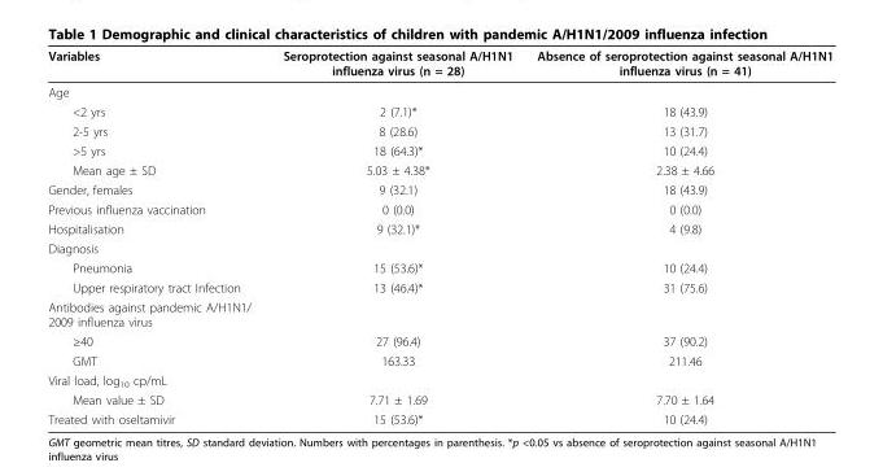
<table><thead><tr><td>Variables</td><td>Seroprotection against seasonal A/H1N1 influenza virus (n = 28)</td><td>Absence of seroprotection against seasonal A/H1N1 influenza virus (n = 41)</td></tr></thead><tbody><tr><td colspan="3">Age</td></tr><tr><td>&lt;2 yrs</td><td>2 (7.1)*</td><td>18 (43.9)</td></tr><tr><td>2-5 yrs</td><td>8 (28.6)</td><td>13 (31.7)</td></tr><tr><td>&gt;5 yrs</td><td>18 (64.3)*</td><td>10 (24.4)</td></tr><tr><td>Mean age ± SD</td><td>5.03 ± 4.38*</td><td>2.38 ± 4.66</td></tr><tr><td>Gender, females</td><td>9 (32.1)</td><td>18 (43.9)</td></tr><tr><td>Previous influenza vaccination</td><td>0 (0.0)</td><td>0 (0.0)</td></tr><tr><td>Hospitalisation</td><td>9 (32.1)*</td><td>4 (9.8)</td></tr><tr><td colspan="3">Diagnosis</td></tr><tr><td>Pneumonia</td><td>15 (53.6)*</td><td>10 (24.4)</td></tr><tr><td>Upper respiratory tract Infection</td><td>13 (46.4)*</td><td>31 (75.6)</td></tr><tr><td colspan="3">Antibodies against pandemic A/H1N1/ 2009 influenza virus</td></tr><tr><td>≥40</td><td>27 (96.4)</td><td>37 (90.2)</td></tr><tr><td>GMT</td><td>163.33</td><td>211.46</td></tr><tr><td colspan="3">Viral load, log<sub>10</sub> cp/mL</td></tr><tr><td>Mean value ± SD</td><td>7.71 ± 1.69</td><td>7.70 ± 1.64</td></tr><tr><td>Treated with oseltamivir</td><td>15 (53.6)*</td><td>10 (24.4)</td></tr></tbody></table>